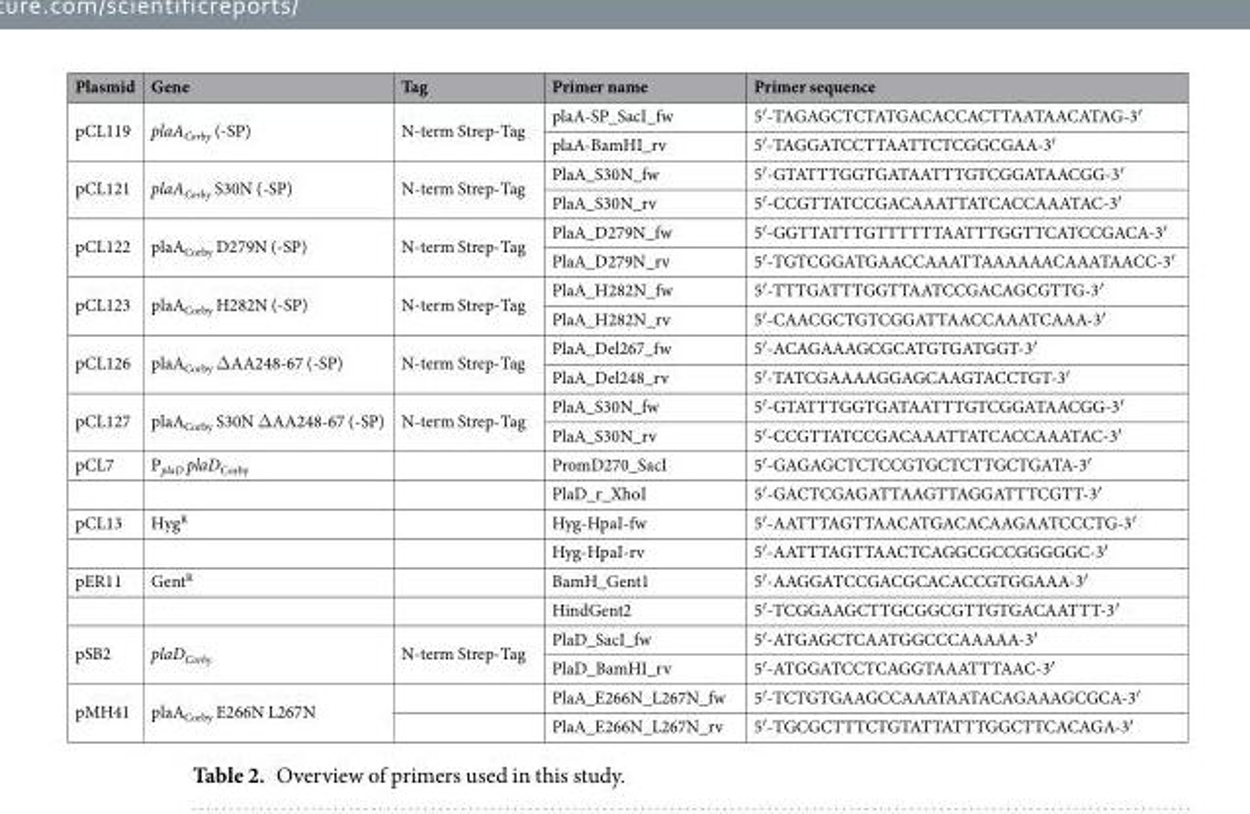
<table><thead><tr><td>Plasmid</td><td>Gene</td><td>Tag</td><td>Primer name</td><td>Primer sequence</td></tr></thead><tbody><tr><td rowspan="2">pCL119</td><td rowspan="2">plaA<sub>Corby</sub> (-SP)</td><td rowspan="2">N-term Strep-Tag</td><td>plaA-SP_SacI_fw</td><td>5′-TAGAGCTCTATGACACCACTTAATAACATAG-3′</td></tr><tr><td>plaA-BamHI_rv</td><td>5′-TAGGATCCTTAATTCTCGGCGAA-3′</td></tr><tr><td rowspan="2">pCL121</td><td rowspan="2">plaA<sub>Corby</sub> S30N (-SP)</td><td rowspan="2">N-term Strep-Tag</td><td>PlaA_S30N_fw</td><td>5′-GTATTTGGTGATAATTTGTCGGATAACGG-3′</td></tr><tr><td>PlaA_S30N_rv</td><td>5′-CCGTTATCCGACAAATTATCACCAAATAC-3′</td></tr><tr><td rowspan="2">pCL122</td><td rowspan="2">plaA<sub>Corby</sub> D279N (-SP)</td><td rowspan="2">N-term Strep-Tag</td><td>PlaA_D279N_fw</td><td>5′-GGTTATTTGTTTTTTAATTTGGTTCATCCGACA-3′</td></tr><tr><td>PlaA_D279N_rv</td><td>5′-TGTCGGATGAACCAAATTAAAAAACAAATAACC-3′</td></tr><tr><td rowspan="2">pCL123</td><td rowspan="2">plaA<sub>Corby</sub> H282N (-SP)</td><td rowspan="2">N-term Strep-Tag</td><td>PlaA_H282N_fw</td><td>5′-TTTGATTTGGTTAATCCGACAGCGTTG-3′</td></tr><tr><td>PlaA_H282N_rv</td><td>5′-CAACGCTGTCGGATTAACCAAATCAAA-3′</td></tr><tr><td rowspan="2">pCL126</td><td rowspan="2">plaA<sub>Corby</sub> ΔAA248-67 (-SP)</td><td rowspan="2">N-term Strep-Tag</td><td>PlaA_Del267_fw</td><td>5′-ACAGAAAGCGCATGTGATGGT-3′</td></tr><tr><td>PlaA_Del248_rv</td><td>5′-TATCGAAAAGGAGCAAGTACCTGT-3′</td></tr><tr><td rowspan="2">pCL127</td><td rowspan="2">plaA<sub>Corby</sub> S30N ΔAA248-67 (-SP)</td><td rowspan="2">N-term Strep-Tag</td><td>PlaA_S30N_fw</td><td>5′-GTATTTGGTGATAATTTGTCGGATAACGG-3′</td></tr><tr><td>PlaA_S30N_rv</td><td>5′-CCGTTATCCGACAAATTATCACCAAATAC-3′</td></tr><tr><td rowspan="2">pCL7</td><td>P<sub>plaD</sub> plaD<sub>Corby</sub></td><td></td><td>PromD270_SacI</td><td>5′-GAGAGCTCTCCGTGCTCTTGCTGATA-3′</td></tr><tr><td></td><td></td><td>PlaD_r_XhoI</td><td>5′-GACTCGAGATTAAGTTAGGATTTCGTT-3′</td></tr><tr><td rowspan="2">pCL13</td><td>Hyg<sup>R</sup></td><td></td><td>Hyg-HpaI-fw</td><td>5′-AATTTAGTTAACATGACACAAGAATCCCTG-3′</td></tr><tr><td></td><td></td><td>Hyg-HpaI-rv</td><td>5′-AATTTAGTTAACTCAGGCGCCGGGGGC-3′</td></tr><tr><td rowspan="2">pER11</td><td>Gent<sup>R</sup></td><td></td><td>BamH_Gent1</td><td>5′-AAGGATCCGACGCACACCGTGGAAA-3′</td></tr><tr><td></td><td></td><td>HindGent2</td><td>5′-TCGGAAGCTTGCGGCGTTGTGACAATTT-3′</td></tr><tr><td rowspan="2">pSB2</td><td rowspan="2">plaD<sub>Corby</sub></td><td rowspan="2">N-term Strep-Tag</td><td>PlaD_SacI_fw</td><td>5′-ATGAGCTCAATGGCCCAAAAA-3′</td></tr><tr><td>PlaD_BamHI_rv</td><td>5′-ATGGATCCTCAGGTAAATTTAAC-3′</td></tr><tr><td rowspan="2">pMH41</td><td rowspan="2">plaA<sub>Corby</sub> E266N L267N</td><td></td><td>PlaA_E266N_L267N_fw</td><td>5′-TCTGTGAAGCCAAATAATACAGAAAGCGCA-3′</td></tr><tr><td></td><td>PlaA_E266N_L267N_rv</td><td>5′-TGCGCTTTCTGTATTATTTGGCTTCACAGA-3′</td></tr></tbody></table>